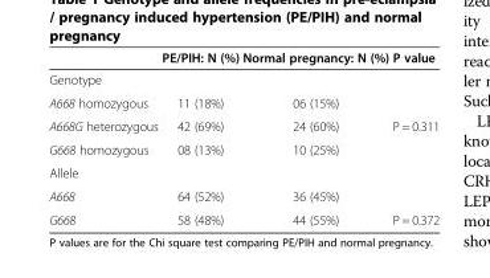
<table><thead><tr><td></td><td>PE/PIH: N (%)</td><td>Normal pregnancy: N (%)</td><td>P value</td></tr></thead><tbody><tr><td colspan="4">Genotype</td></tr><tr><td>A668 homozygous</td><td>11 (18%)</td><td>06 (15%)</td><td></td></tr><tr><td>A668G heterozygous</td><td>42 (69%)</td><td>24 (60%)</td><td>P = 0.311</td></tr><tr><td>G668 homozygous</td><td>08 (13%)</td><td>10 (25%)</td><td></td></tr><tr><td colspan="4">Allele</td></tr><tr><td>A668</td><td>64 (52%)</td><td>36 (45%)</td><td></td></tr><tr><td>G668</td><td>58 (48%)</td><td>44 (55%)</td><td>P = 0.372</td></tr></tbody></table>